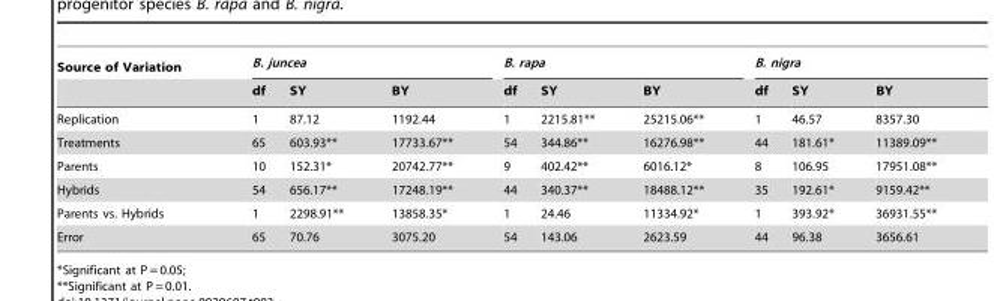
<table><thead><tr><td rowspan="2">Source of Variation</td><td colspan="3">B. juncea</td><td colspan="3">B. rapa</td><td colspan="3">B. nigra</td></tr><tr><td>df</td><td>SY</td><td>BY</td><td>df</td><td>SY</td><td>BY</td><td>df</td><td>SY</td><td>BY</td></tr></thead><tbody><tr><td>Replication</td><td>1</td><td>87.12</td><td>1192.44</td><td>1</td><td>2215.81**</td><td>25215.06**</td><td>1</td><td>46.57</td><td>8357.30</td></tr><tr><td>Treatments</td><td>65</td><td>603.93**</td><td>17733.67**</td><td>54</td><td>344.86**</td><td>16276.98**</td><td>44</td><td>181.61*</td><td>11389.09**</td></tr><tr><td>Parents</td><td>10</td><td>152.31*</td><td>20742.77**</td><td>9</td><td>402.42**</td><td>6016.12*</td><td>8</td><td>106.95</td><td>17951.08**</td></tr><tr><td>Hybrids</td><td>54</td><td>656.17**</td><td>17248.19**</td><td>44</td><td>340.37**</td><td>18488.12**</td><td>35</td><td>192.61*</td><td>9159.42**</td></tr><tr><td>Parents vs. Hybrids</td><td>1</td><td>2298.91**</td><td>13858.35*</td><td>1</td><td>24.46</td><td>11334.92*</td><td>1</td><td>393.92*</td><td>36931.55**</td></tr><tr><td>Error</td><td>65</td><td>70.76</td><td>3075.20</td><td>54</td><td>143.06</td><td>2623.59</td><td>44</td><td>96.38</td><td>3656.61</td></tr></tbody></table>